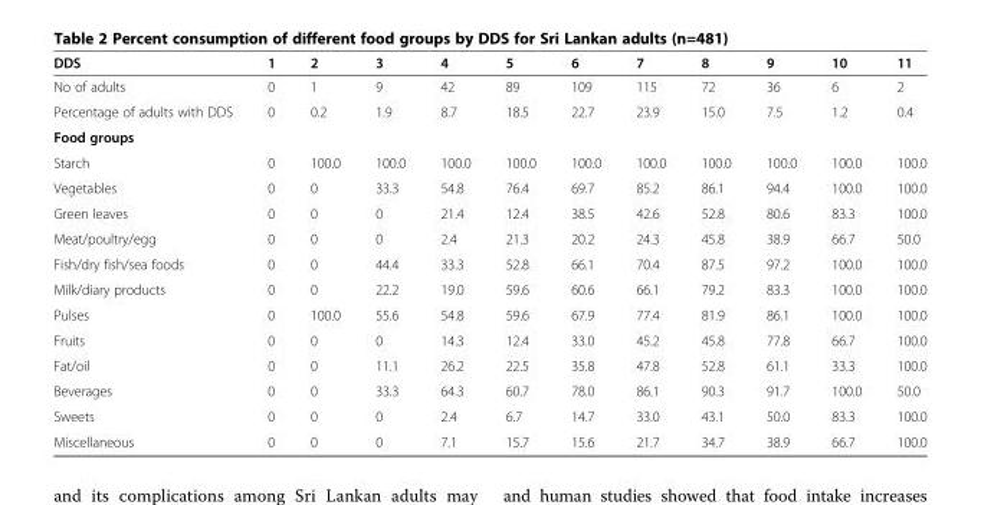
<table><thead><tr><td>DDS</td><td>1</td><td>2</td><td>3</td><td>4</td><td>5</td><td>6</td><td>7</td><td>8</td><td>9</td><td>10</td><td>11</td></tr></thead><tbody><tr><td>No of adults</td><td>0</td><td>1</td><td>9</td><td>42</td><td>89</td><td>109</td><td>115</td><td>72</td><td>36</td><td>6</td><td>2</td></tr><tr><td>Percentage of adults with DDS</td><td>0</td><td>0.2</td><td>1.9</td><td>8.7</td><td>18.5</td><td>22.7</td><td>23.9</td><td>15.0</td><td>7.5</td><td>1.2</td><td>0.4</td></tr><tr><td colspan="12">Food groups</td></tr><tr><td>Starch</td><td>0</td><td>100.0</td><td>100.0</td><td>100.0</td><td>100.0</td><td>100.0</td><td>100.0</td><td>100.0</td><td>100.0</td><td>100.0</td><td>100.0</td></tr><tr><td>Vegetables</td><td>0</td><td>0</td><td>33.3</td><td>54.8</td><td>76.4</td><td>69.7</td><td>85.2</td><td>86.1</td><td>94.4</td><td>100.0</td><td>100.0</td></tr><tr><td>Green leaves</td><td>0</td><td>0</td><td>0</td><td>21.4</td><td>12.4</td><td>38.5</td><td>42.6</td><td>52.8</td><td>80.6</td><td>83.3</td><td>100.0</td></tr><tr><td>Meat/poultry/egg</td><td>0</td><td>0</td><td>0</td><td>2.4</td><td>21.3</td><td>20.2</td><td>24.3</td><td>45.8</td><td>38.9</td><td>66.7</td><td>50.0</td></tr><tr><td>Fish/dry fish/sea foods</td><td>0</td><td>0</td><td>44.4</td><td>33.3</td><td>52.8</td><td>66.1</td><td>70.4</td><td>87.5</td><td>97.2</td><td>100.0</td><td>100.0</td></tr><tr><td>Milk/diary products</td><td>0</td><td>0</td><td>22.2</td><td>19.0</td><td>59.6</td><td>60.6</td><td>66.1</td><td>79.2</td><td>83.3</td><td>100.0</td><td>100.0</td></tr><tr><td>Pulses</td><td>0</td><td>100.0</td><td>55.6</td><td>54.8</td><td>59.6</td><td>67.9</td><td>77.4</td><td>81.9</td><td>86.1</td><td>100.0</td><td>100.0</td></tr><tr><td>Fruits</td><td>0</td><td>0</td><td>0</td><td>14.3</td><td>12.4</td><td>33.0</td><td>45.2</td><td>45.8</td><td>77.8</td><td>66.7</td><td>100.0</td></tr><tr><td>Fat/oil</td><td>0</td><td>0</td><td>11.1</td><td>26.2</td><td>22.5</td><td>35.8</td><td>47.8</td><td>52.8</td><td>61.1</td><td>33.3</td><td>100.0</td></tr><tr><td>Beverages</td><td>0</td><td>0</td><td>33.3</td><td>64.3</td><td>60.7</td><td>78.0</td><td>86.1</td><td>90.3</td><td>91.7</td><td>100.0</td><td>50.0</td></tr><tr><td>Sweets</td><td>0</td><td>0</td><td>0</td><td>2.4</td><td>6.7</td><td>14.7</td><td>33.0</td><td>43.1</td><td>50.0</td><td>83.3</td><td>100.0</td></tr><tr><td>Miscellaneous</td><td>0</td><td>0</td><td>0</td><td>7.1</td><td>15.7</td><td>15.6</td><td>21.7</td><td>34.7</td><td>38.9</td><td>66.7</td><td>100.0</td></tr></tbody></table>